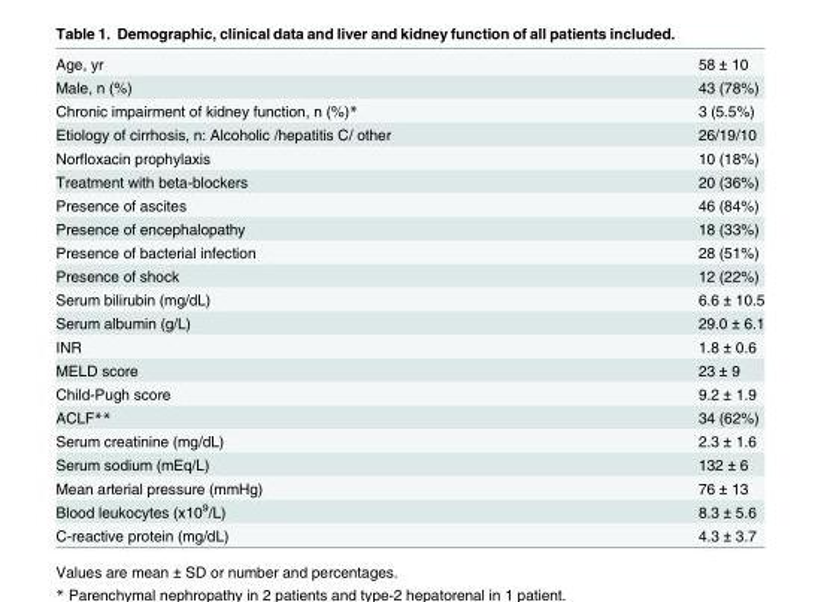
<table><tbody><tr><td>Age, yr</td><td>58 ± 10</td></tr><tr><td>Male, n (%)</td><td>43 (78%)</td></tr><tr><td>Chronic impairment of kidney function, n (%)*</td><td>3 (5.5%)</td></tr><tr><td>Etiology of cirrhosis, n: Alcoholic /hepatitis C/ other</td><td>26/19/10</td></tr><tr><td>Norfloxacin prophylaxis</td><td>10 (18%)</td></tr><tr><td>Treatment with beta-blockers</td><td>20 (36%)</td></tr><tr><td>Presence of ascites</td><td>46 (84%)</td></tr><tr><td>Presence of encephalopathy</td><td>18 (33%)</td></tr><tr><td>Presence of bacterial infection</td><td>28 (51%)</td></tr><tr><td>Presence of shock</td><td>12 (22%)</td></tr><tr><td>Serum bilirubin (mg/dL)</td><td>6.6 ± 10.5</td></tr><tr><td>Serum albumin (g/L)</td><td>29.0 ± 6.1</td></tr><tr><td>INR</td><td>1.8 ± 0.6</td></tr><tr><td>MELD score</td><td>23 ± 9</td></tr><tr><td>Child-Pugh score</td><td>9.2 ± 1.9</td></tr><tr><td>ACLF**</td><td>34 (62%)</td></tr><tr><td>Serum creatinine (mg/dL)</td><td>2.3 ± 1.6</td></tr><tr><td>Serum sodium (mEq/L)</td><td>132 ± 6</td></tr><tr><td>Mean arterial pressure (mmHg)</td><td>76 ± 13</td></tr><tr><td>Blood leukocytes (x10<sup>9</sup>/L)</td><td>8.3 ± 5.6</td></tr><tr><td>C-reactive protein (mg/dL)</td><td>4.3 ± 3.7</td></tr></tbody></table>